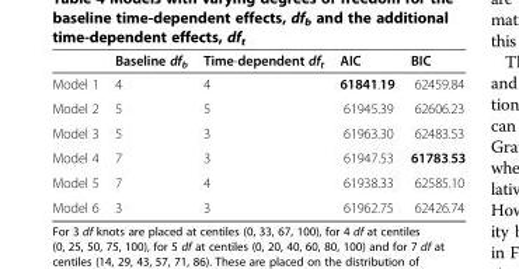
<table><thead><tr><td></td><td>Baseline df<sub>b</sub></td><td>Time-dependent df<sub>t</sub></td><td>AIC</td><td>BIC</td></tr></thead><tbody><tr><td>Model 1</td><td>4</td><td>4</td><td>61841.19</td><td>62459.84</td></tr><tr><td>Model 2</td><td>5</td><td>5</td><td>61945.39</td><td>62606.23</td></tr><tr><td>Model 3</td><td>5</td><td>3</td><td>61963.30</td><td>62483.53</td></tr><tr><td>Model 4</td><td>7</td><td>3</td><td>61947.53</td><td>61783.53</td></tr><tr><td>Model 5</td><td>7</td><td>4</td><td>61938.33</td><td>62585.10</td></tr><tr><td>Model 6</td><td>3</td><td>3</td><td>61962.75</td><td>62426.74</td></tr></tbody></table>